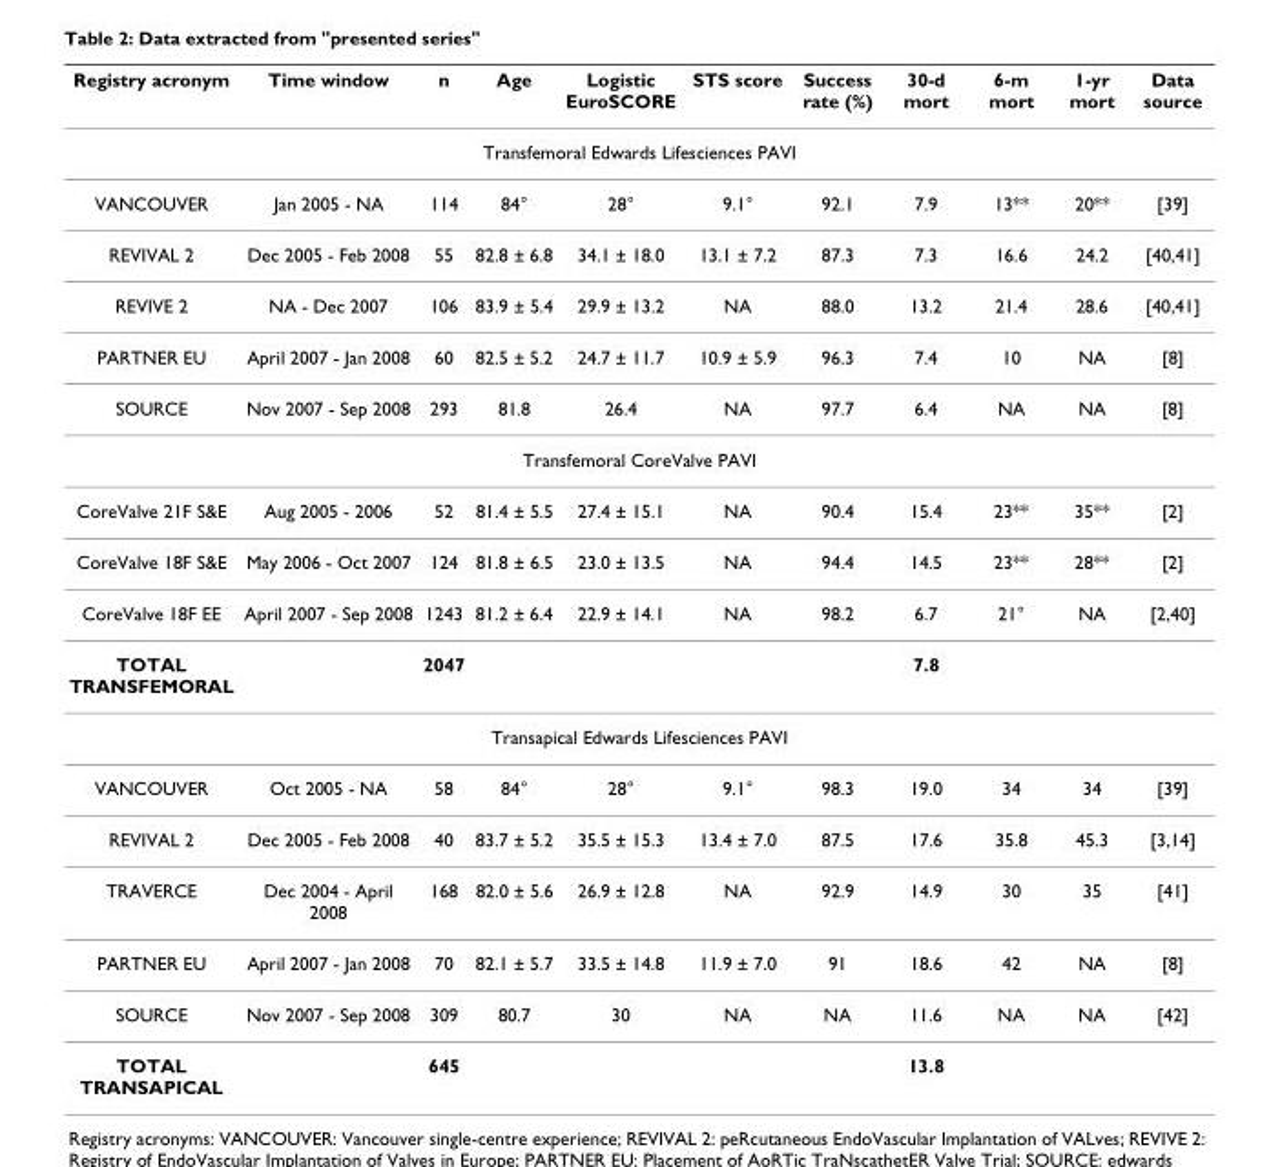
<table><thead><tr><td>Registry acronym</td><td>Time window</td><td>n</td><td>Age</td><td>Logistic EuroSCORE</td><td>STS score</td><td>Success rate (%)</td><td>30-d mort</td><td>6-m mort</td><td>1-yr mort</td><td>Data source</td></tr></thead><tbody><tr><td colspan="11">Transfemoral Edwards Lifesciences PAVI</td></tr><tr><td>VANCOUVER</td><td>Jan 2005 - NA</td><td>114</td><td>84°</td><td>28°</td><td>9.1°</td><td>92.1</td><td>7.9</td><td>13**</td><td>20**</td><td>[39]</td></tr><tr><td>REVIVAL 2</td><td>Dec 2005 - Feb 2008</td><td>55</td><td>82.8 ± 6.8</td><td>34.1 ± 18.0</td><td>13.1 ± 7.2</td><td>87.3</td><td>7.3</td><td>16.6</td><td>24.2</td><td>[40,41]</td></tr><tr><td>REVIVE 2</td><td>NA - Dec 2007</td><td>106</td><td>83.9 ± 5.4</td><td>29.9 ± 13.2</td><td>NA</td><td>88.0</td><td>13.2</td><td>21.4</td><td>28.6</td><td>[40,41]</td></tr><tr><td>PARTNER EU</td><td>April 2007 - Jan 2008</td><td>60</td><td>82.5 ± 5.2</td><td>24.7 ± 11.7</td><td>10.9 ± 5.9</td><td>96.3</td><td>7.4</td><td>10</td><td>NA</td><td>[8]</td></tr><tr><td>SOURCE</td><td>Nov 2007 - Sep 2008</td><td>293</td><td>81.8</td><td>26.4</td><td>NA</td><td>97.7</td><td>6.4</td><td>NA</td><td>NA</td><td>[8]</td></tr><tr><td colspan="11">Transfemoral CoreValve PAVI</td></tr><tr><td>CoreValve 21F S&amp;E</td><td>Aug 2005 - 2006</td><td>52</td><td>81.4 ± 5.5</td><td>27.4 ± 15.1</td><td>NA</td><td>90.4</td><td>15.4</td><td>23**</td><td>35**</td><td>[2]</td></tr><tr><td>CoreValve 18F S&amp;E</td><td>May 2006 - Oct 2007</td><td>124</td><td>81.8 ± 6.5</td><td>23.0 ± 13.5</td><td>NA</td><td>94.4</td><td>14.5</td><td>23**</td><td>28**</td><td>[2]</td></tr><tr><td>CoreValve 18F EE</td><td>April 2007 - Sep 2008</td><td>1243</td><td>81.2 ± 6.4</td><td>22.9 ± 14.1</td><td>NA</td><td>98.2</td><td>6.7</td><td>21°</td><td>NA</td><td>[2,40]</td></tr><tr><td>TOTAL TRANSFEMORAL</td><td></td><td>2047</td><td></td><td></td><td></td><td></td><td>7.8</td><td></td><td></td><td></td></tr><tr><td colspan="11">Transapical Edwards Lifesciences PAVI</td></tr><tr><td>VANCOUVER</td><td>Oct 2005 - NA</td><td>58</td><td>84°</td><td>28°</td><td>9.1°</td><td>98.3</td><td>19.0</td><td>34</td><td>34</td><td>[39]</td></tr><tr><td>REVIVAL 2</td><td>Dec 2005 - Feb 2008</td><td>40</td><td>83.7 ± 5.2</td><td>35.5 ± 15.3</td><td>13.4 ± 7.0</td><td>87.5</td><td>17.6</td><td>35.8</td><td>45.3</td><td>[3,14]</td></tr><tr><td>TRAVERCE</td><td>Dec 2004 - April 2008</td><td>168</td><td>82.0 ± 5.6</td><td>26.9 ± 12.8</td><td>NA</td><td>92.9</td><td>14.9</td><td>30</td><td>35</td><td>[41]</td></tr><tr><td>PARTNER EU</td><td>April 2007 - Jan 2008</td><td>70</td><td>82.1 ± 5.7</td><td>33.5 ± 14.8</td><td>11.9 ± 7.0</td><td>91</td><td>18.6</td><td>42</td><td>NA</td><td>[8]</td></tr><tr><td>SOURCE</td><td>Nov 2007 - Sep 2008</td><td>309</td><td>80.7</td><td>30</td><td>NA</td><td>NA</td><td>11.6</td><td>NA</td><td>NA</td><td>[42]</td></tr><tr><td>TOTAL TRANSAPICAL</td><td></td><td>645</td><td></td><td></td><td></td><td></td><td>13.8</td><td></td><td></td><td></td></tr></tbody></table>